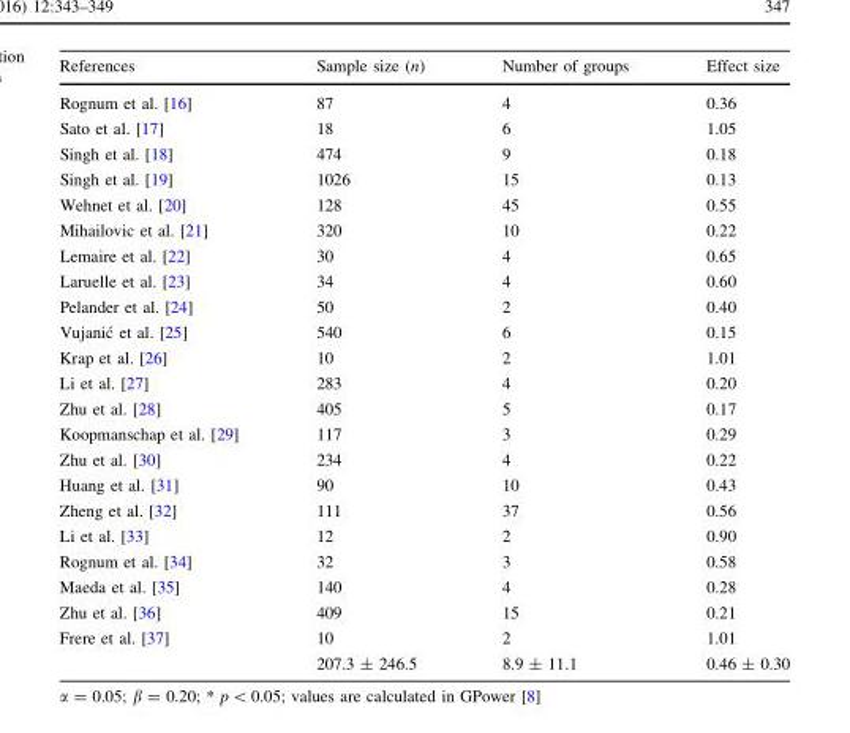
<table><thead><tr><td>References</td><td>Sample size (n)</td><td>Number of groups</td><td>Effect size</td></tr></thead><tbody><tr><td>Rognum et al. [16]</td><td>87</td><td>4</td><td>0.36</td></tr><tr><td>Sato et al. [17]</td><td>18</td><td>6</td><td>1.05</td></tr><tr><td>Singh et al. [18]</td><td>474</td><td>9</td><td>0.18</td></tr><tr><td>Singh et al. [19]</td><td>1026</td><td>15</td><td>0.13</td></tr><tr><td>Wehnet et al. [20]</td><td>128</td><td>45</td><td>0.55</td></tr><tr><td>Mihailovic et al. [21]</td><td>320</td><td>10</td><td>0.22</td></tr><tr><td>Lemaire et al. [22]</td><td>30</td><td>4</td><td>0.65</td></tr><tr><td>Laruelle et al. [23]</td><td>34</td><td>4</td><td>0.60</td></tr><tr><td>Pelander et al. [24]</td><td>50</td><td>2</td><td>0.40</td></tr><tr><td>Vujanic´ et al. [25]</td><td>540</td><td>6</td><td>0.15</td></tr><tr><td>Krap et al. [26]</td><td>10</td><td>2</td><td>1.01</td></tr><tr><td>Li et al. [27]</td><td>283</td><td>4</td><td>0.20</td></tr><tr><td>Zhu et al. [28]</td><td>405</td><td>5</td><td>0.17</td></tr><tr><td>Koopmanschap et al. [29]</td><td>117</td><td>3</td><td>0.29</td></tr><tr><td>Zhu et al. [30]</td><td>234</td><td>4</td><td>0.22</td></tr><tr><td>Huang et al. [31]</td><td>90</td><td>10</td><td>0.43</td></tr><tr><td>Zheng et al. [32]</td><td>111</td><td>37</td><td>0.56</td></tr><tr><td>Li et al. [33]</td><td>12</td><td>2</td><td>0.90</td></tr><tr><td>Rognum et al. [34]</td><td>32</td><td>3</td><td>0.58</td></tr><tr><td>Maeda et al. [35]</td><td>140</td><td>4</td><td>0.28</td></tr><tr><td>Zhu et al. [36]</td><td>409</td><td>15</td><td>0.21</td></tr><tr><td rowspan="2">Frere et al. [37]</td><td>10</td><td>2</td><td>1.01</td></tr><tr><td>207.3 ± 246.5</td><td>8.9 ± 11.1</td><td>0.46 ± 0.30</td></tr></tbody></table>